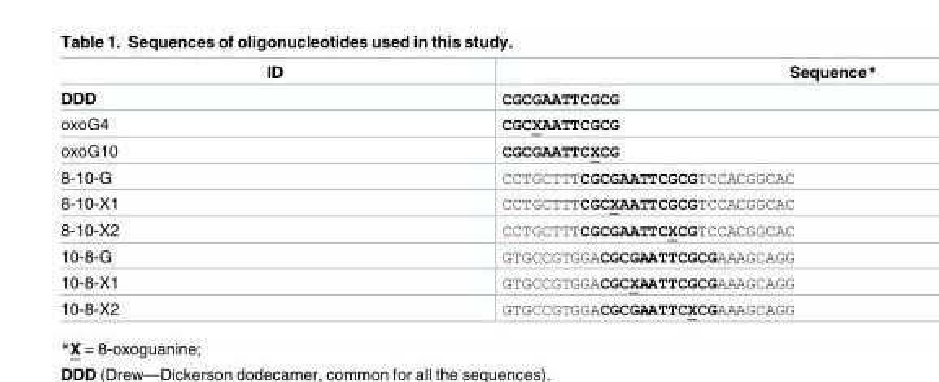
<table><thead><tr><td>ID</td><td>Sequence*</td></tr></thead><tbody><tr><td>DDD</td><td>CGCGAATTCGCG</td></tr><tr><td>oxoG4</td><td>CGCXAATTCGCG</td></tr><tr><td>oxoG10</td><td>CGCGAATTCXCG</td></tr><tr><td>8-10-G</td><td>CCTGCTTTCGCGAATTCGCGTCCACGGCAC</td></tr><tr><td>8-10-X1</td><td>CCTGCTTTCGCXAATTCGCGTCCACGGCAC</td></tr><tr><td>8-10-X2</td><td>CCTGCTTTCGCGAATTCXCGTCCACGGCAC</td></tr><tr><td>10-8-G</td><td>GTGCCGTGGACGCGAATTCGCGAAAGCAGG</td></tr><tr><td>10-8-X1</td><td>GTGCCGTGGACGCXAATTCGCGAAAGCAGG</td></tr><tr><td>10-8-X2</td><td>GTGCCGTGGACGCGAATTCXCGAAAGCAGG</td></tr></tbody></table>